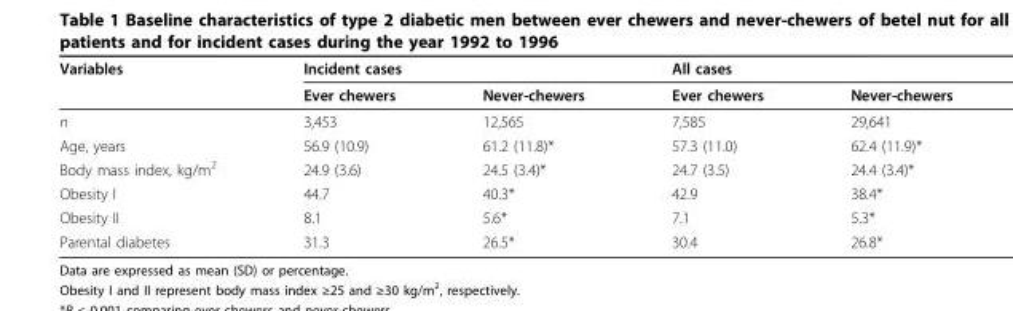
<table><thead><tr><td rowspan="2">Variables</td><td colspan="2">Incident cases</td><td colspan="2">All cases</td></tr><tr><td>Ever chewers</td><td>Never-chewers</td><td>Ever chewers</td><td>Never-chewers</td></tr></thead><tbody><tr><td>n</td><td>3,453</td><td>12,565</td><td>7,585</td><td>29,641</td></tr><tr><td>Age, years</td><td>56.9 (10.9)</td><td>61.2 (11.8)*</td><td>57.3 (11.0)</td><td>62.4 (11.9)*</td></tr><tr><td>Body mass index, kg/m<sup>2</sup></td><td>24.9 (3.6)</td><td>24.5 (3.4)*</td><td>24.7 (3.5)</td><td>24.4 (3.4)*</td></tr><tr><td>Obesity I</td><td>44.7</td><td>40.3*</td><td>42.9</td><td>38.4*</td></tr><tr><td>Obesity II</td><td>8.1</td><td>5.6*</td><td>7.1</td><td>5.3*</td></tr><tr><td>Parental diabetes</td><td>31.3</td><td>26.5*</td><td>30.4</td><td>26.8*</td></tr></tbody></table>